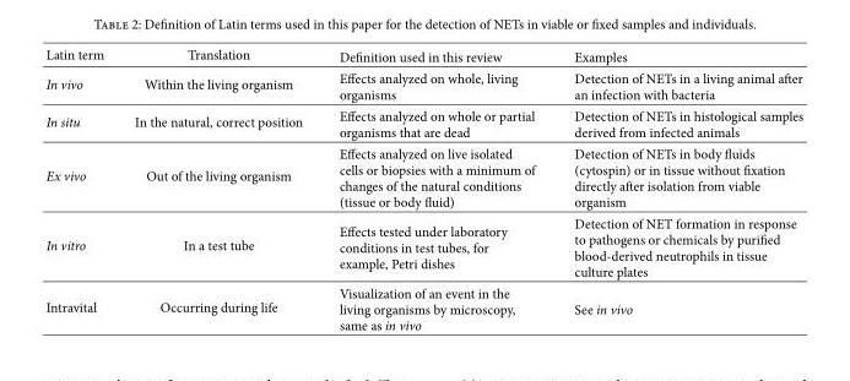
<table><thead><tr><td>Latin term</td><td>Translation</td><td>Definition used in this review</td><td>Examples</td></tr></thead><tbody><tr><td>In vivo</td><td>Within the living organism</td><td>Effects analyzed on whole, living organisms</td><td>Detection of NETs in a living animal after an infection with bacteria</td></tr><tr><td>In situ</td><td>In the natural, correct position</td><td>Effects analyzed on whole or partial organisms that are dead</td><td>Detection of NETs in histological samples derived from infected animals</td></tr><tr><td>Ex vivo</td><td>Out of the living organism</td><td>Effects analyzed on live isolated cells or biopsies with a minimum of changes of the natural conditions (tissue or body fluid)</td><td>Detection of NETs in body fluids (cytospin) or in tissue without fixation directly after isolation from viable organism</td></tr><tr><td>In vitro</td><td>In a test tube</td><td>Effects tested under laboratory conditions in test tubes, for example, Petri dishes</td><td>Detection of NET formation in response to pathogens or chemicals by purified blood-derived neutrophils in tissue culture plates</td></tr><tr><td>Intravital</td><td>Occurring during life</td><td>Visualization of an event in the living organisms by microscopy, same as in vivo</td><td>See in vivo</td></tr></tbody></table>